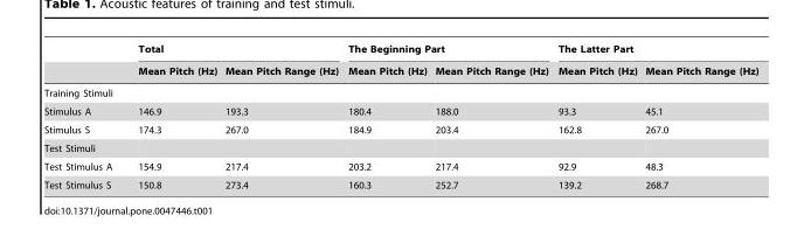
<table><thead><tr><td rowspan="2"></td><td colspan="2">Total</td><td colspan="2">The Beginning Part</td><td colspan="2">The Latter Part</td></tr><tr><td>Mean Pitch (Hz)</td><td>Mean Pitch Range (Hz)</td><td>Mean Pitch (Hz)</td><td>Mean Pitch Range (Hz)</td><td>Mean Pitch (Hz)</td><td>Mean Pitch Range (Hz)</td></tr></thead><tbody><tr><td colspan="7">Training Stimuli</td></tr><tr><td>Stimulus A</td><td>146.9</td><td>193.3</td><td>180.4</td><td>188.0</td><td>93.3</td><td>45.1</td></tr><tr><td>Stimulus S</td><td>174.3</td><td>267.0</td><td>184.9</td><td>203.4</td><td>162.8</td><td>267.0</td></tr><tr><td colspan="7">Test Stimuli</td></tr><tr><td>Test Stimulus A</td><td>154.9</td><td>217.4</td><td>203.2</td><td>217.4</td><td>92.9</td><td>48.3</td></tr><tr><td>Test Stimulus S</td><td>150.8</td><td>273.4</td><td>160.3</td><td>252.7</td><td>139.2</td><td>268.7</td></tr></tbody></table>